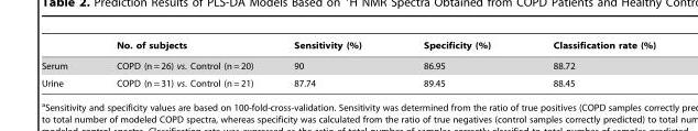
<table><thead><tr><td></td><td>No. of subjects</td><td>Sensitivity (%)</td><td>Specificity (%)</td><td>Classification rate (%)</td></tr></thead><tbody><tr><td>Serum</td><td>COPD (n = 26) vs. Control (n = 20)</td><td>90</td><td>86.95</td><td>88.72</td></tr><tr><td>Urine</td><td>COPD (n = 31) vs. Control (n = 21)</td><td>87.74</td><td>89.45</td><td>88.45</td></tr></tbody></table>